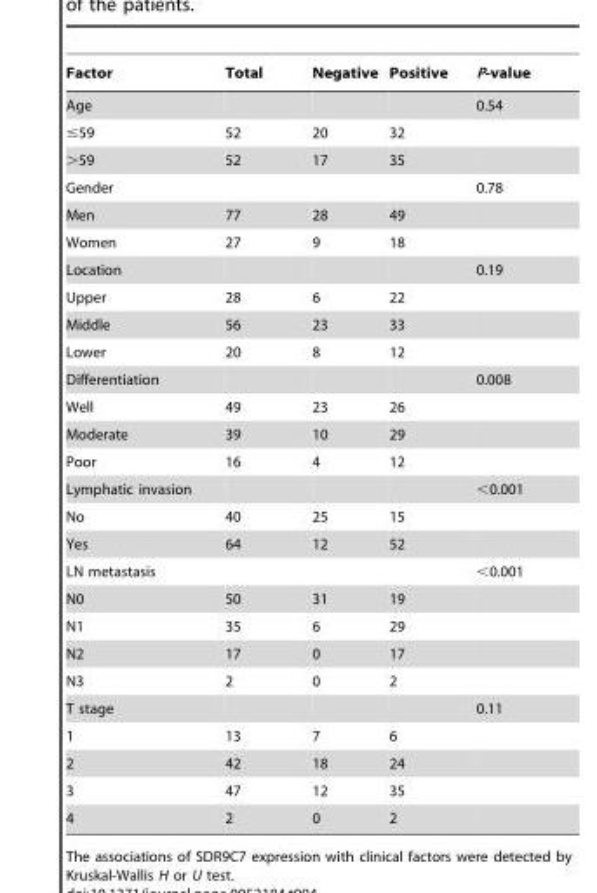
<table><thead><tr><td>Factor</td><td>Total</td><td>Negative</td><td>Positive</td><td>P-value</td></tr></thead><tbody><tr><td>Age</td><td></td><td></td><td></td><td>0.54</td></tr><tr><td>≤59</td><td>52</td><td>20</td><td>32</td><td></td></tr><tr><td>&gt;59</td><td>52</td><td>17</td><td>35</td><td></td></tr><tr><td>Gender</td><td></td><td></td><td></td><td>0.78</td></tr><tr><td>Men</td><td>77</td><td>28</td><td>49</td><td></td></tr><tr><td>Women</td><td>27</td><td>9</td><td>18</td><td></td></tr><tr><td>Location</td><td></td><td></td><td></td><td>0.19</td></tr><tr><td>Upper</td><td>28</td><td>6</td><td>22</td><td></td></tr><tr><td>Middle</td><td>56</td><td>23</td><td>33</td><td></td></tr><tr><td>Lower</td><td>20</td><td>8</td><td>12</td><td></td></tr><tr><td>Differentiation</td><td></td><td></td><td></td><td>0.008</td></tr><tr><td>Well</td><td>49</td><td>23</td><td>26</td><td></td></tr><tr><td>Moderate</td><td>39</td><td>10</td><td>29</td><td></td></tr><tr><td>Poor</td><td>16</td><td>4</td><td>12</td><td></td></tr><tr><td>Lymphatic invasion</td><td></td><td></td><td></td><td>&lt;0.001</td></tr><tr><td>No</td><td>40</td><td>25</td><td>15</td><td></td></tr><tr><td>Yes</td><td>64</td><td>12</td><td>52</td><td></td></tr><tr><td>LN metastasis</td><td></td><td></td><td></td><td>&lt;0.001</td></tr><tr><td>N0</td><td>50</td><td>31</td><td>19</td><td></td></tr><tr><td>N1</td><td>35</td><td>6</td><td>29</td><td></td></tr><tr><td>N2</td><td>17</td><td>0</td><td>17</td><td></td></tr><tr><td>N3</td><td>2</td><td>0</td><td>2</td><td></td></tr><tr><td>T stage</td><td></td><td></td><td></td><td>0.11</td></tr><tr><td>1</td><td>13</td><td>7</td><td>6</td><td></td></tr><tr><td>2</td><td>42</td><td>18</td><td>24</td><td></td></tr><tr><td>3</td><td>47</td><td>12</td><td>35</td><td></td></tr><tr><td>4</td><td>2</td><td>0</td><td>2</td><td></td></tr></tbody></table>